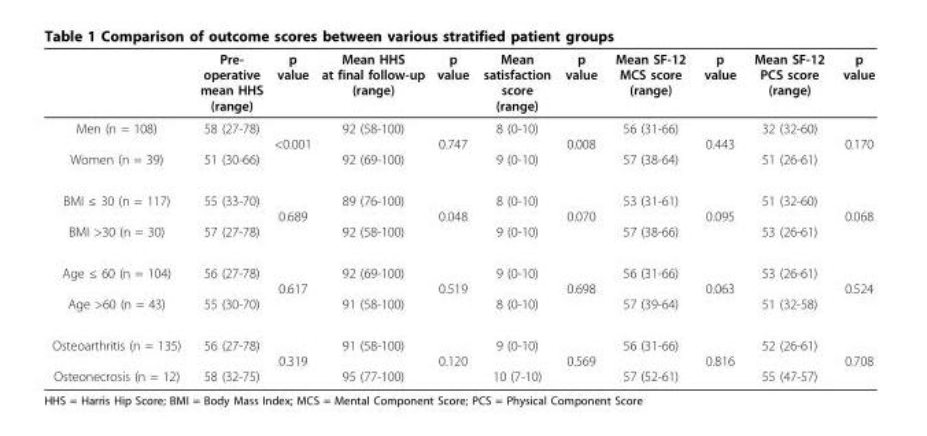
<table><thead><tr><td></td><td>Pre- operative mean HHS (range)</td><td>p value</td><td>Mean HHS at final follow-up (range)</td><td>p value</td><td>Mean satisfaction score (range)</td><td>p value</td><td>Mean SF-12 MCS score (range)</td><td>p value</td><td>Mean SF-12 PCS score (range)</td><td>p value</td></tr></thead><tbody><tr><td>Men (n = 108) Women (n = 39)</td><td>58 (27-78) 51 (30-66)</td><td>&lt;0.001</td><td>92 (58-100) 92 (69-100)</td><td>0.747</td><td>8 (0-10) 9 (0-10)</td><td>0.008</td><td>56 (31-66) 57 (38-64)</td><td>0.443</td><td>32 (32-60) 51 (26-61)</td><td>0.170</td></tr><tr><td>BMI ≤ 30 (n = 117) BMI &gt;30 (n = 30)</td><td>55 (33-70) 57 (27-78)</td><td>0.689</td><td>89 (76-100) 92 (58-100)</td><td>0.048</td><td>8 (0-10) 9 (0-10)</td><td>0.070</td><td>53 (31-61) 57 (38-66)</td><td>0.095</td><td>51 (32-60) 53 (26-61)</td><td>0.068</td></tr><tr><td>Age ≤ 60 (n = 104) Age &gt;60 (n = 43)</td><td>56 (27-78) 55 (30-70)</td><td>0.617</td><td>92 (69-100) 91 (58-100)</td><td>0.519</td><td>9 (0-10) 8 (0-10)</td><td>0.698</td><td>56 (31-66) 57 (39-64)</td><td>0.063</td><td>53 (26-61) 51 (32-58)</td><td>0.524</td></tr><tr><td>Osteoarthritis (n = 135) Osteonecrosis (n = 12)</td><td>56 (27-78) 58 (32-75)</td><td>0.319</td><td>91 (58-100) 95 (77-100)</td><td>0.120</td><td>9 (0-10) 10 (7-10)</td><td>0.569</td><td>56 (31-66) 57 (52-61)</td><td>0.816</td><td>52 (26-61) 55 (47-57)</td><td>0.708</td></tr></tbody></table>